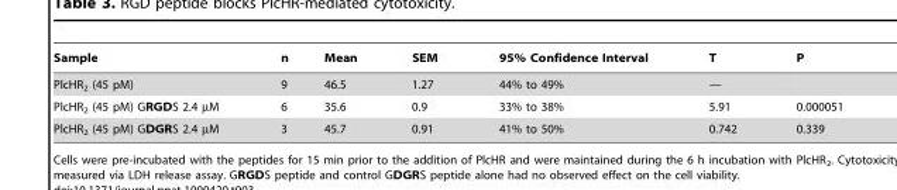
<table><thead><tr><td>Sample</td><td>n</td><td>Mean</td><td>SEM</td><td>95% Confidence Interval</td><td>T</td><td>P</td></tr></thead><tbody><tr><td>PlcHR<sub>2</sub> (45 pM)</td><td>9</td><td>46.5</td><td>1.27</td><td>44% to 49%</td><td>—</td><td></td></tr><tr><td>PlcHR<sub>2</sub> (45 pM) GRGDS 2.4 µM</td><td>6</td><td>35.6</td><td>0.9</td><td>33% to 38%</td><td>5.91</td><td>0.000051</td></tr><tr><td>PlcHR<sub>2</sub> (45 pM) GDGRS 2.4 µM</td><td>3</td><td>45.7</td><td>0.91</td><td>41% to 50%</td><td>0.742</td><td>0.339</td></tr></tbody></table>